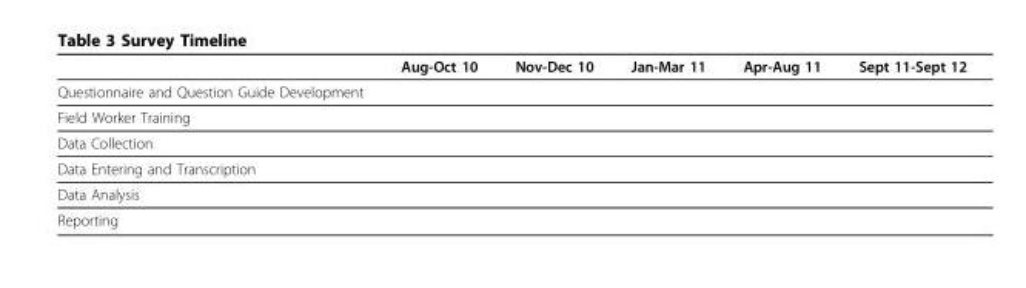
<table><thead><tr><td></td><td>Aug-Oct 10</td><td>Nov-Dec 10</td><td>Jan-Mar 11</td><td>Apr-Aug 11</td><td>Sept 11-Sept 12</td></tr></thead><tbody><tr><td colspan="6">Questionnaire and Question Guide Development</td></tr><tr><td colspan="6">Field Worker Training</td></tr><tr><td colspan="6">Data Collection</td></tr><tr><td colspan="6">Data Entering and Transcription</td></tr><tr><td colspan="6">Data Analysis</td></tr><tr><td>Reporting</td><td></td><td></td><td></td><td></td><td></td></tr></tbody></table>